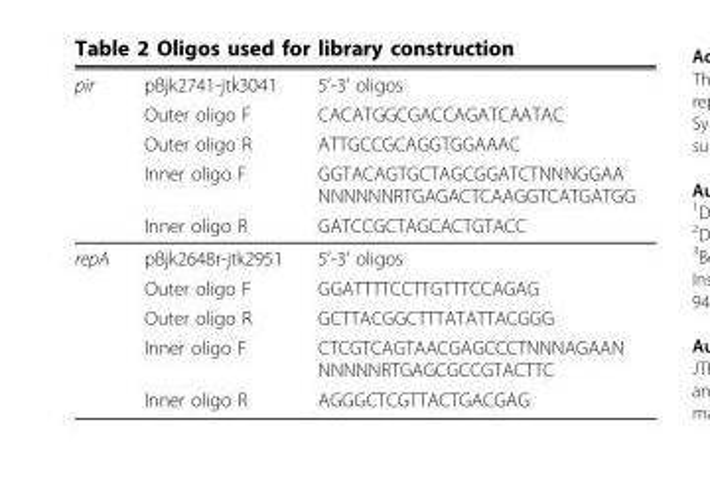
<table><tbody><tr><td rowspan="5">pir</td><td>pBjk2741-jtk3041</td><td>5’-3’ oligos</td></tr><tr><td>Outer oligo F</td><td>CACATGGCGACCAGATCAATAC</td></tr><tr><td>Outer oligo R</td><td>ATTGCCGCAGGTGGAAAC</td></tr><tr><td>Inner oligo F</td><td>GGTACAGTGCTAGCGGATCTNNNGGAA NNNNNNRTGAGACTCAAGGTCATGATGG</td></tr><tr><td>Inner oligo R</td><td>GATCCGCTAGCACTGTACC</td></tr><tr><td rowspan="5">repA</td><td>pBjk2648r-jtk2951</td><td>5’-3’ oligos</td></tr><tr><td>Outer oligo F</td><td>GGATTTTCCTTGTTTCCAGAG</td></tr><tr><td>Outer oligo R</td><td>GCTTACGGCTTTATATTACGGG</td></tr><tr><td>Inner oligo F</td><td>CTCGTCAGTAACGAGCCCTNNNAGAAN NNNNNRTGAGCGCCGTACTTC</td></tr><tr><td>Inner oligo R</td><td>AGGGCTCGTTACTGACGAG</td></tr></tbody></table>